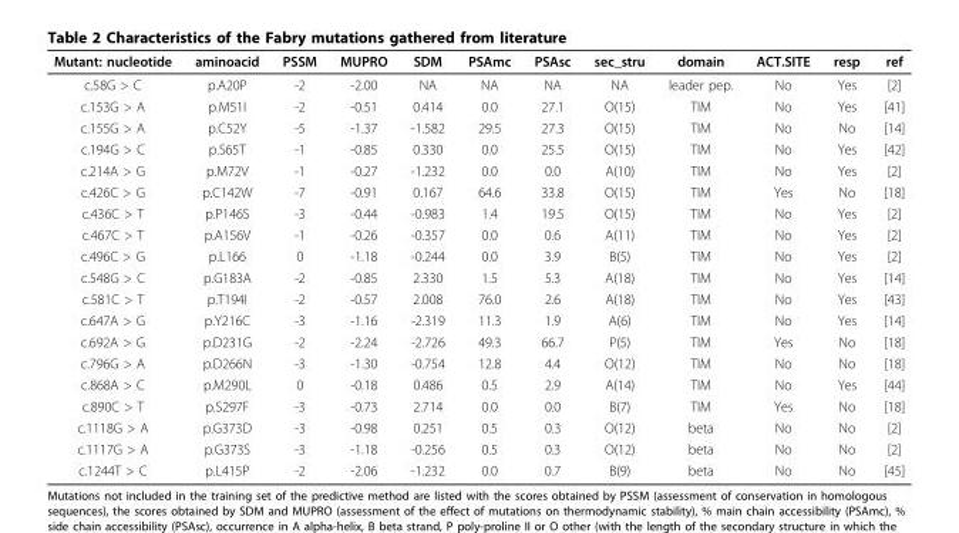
<table><thead><tr><td>Mutant: nucleotide</td><td>aminoacid</td><td>PSSM</td><td>MUPRO</td><td>SDM</td><td>PSAmc</td><td>PSAsc</td><td>sec_stru</td><td>domain</td><td>ACT.SITE</td><td>resp</td><td>ref</td></tr></thead><tbody><tr><td>c.58G &gt; C</td><td>p.A20P</td><td>-2</td><td>-2.00</td><td>NA</td><td>NA</td><td>NA</td><td>NA</td><td>leader pep.</td><td>No</td><td>Yes</td><td>[2]</td></tr><tr><td>c.153G &gt; A</td><td>p.M51I</td><td>-2</td><td>-0.51</td><td>0.414</td><td>0.0</td><td>27.1</td><td>O(15)</td><td>TIM</td><td>No</td><td>Yes</td><td>[41]</td></tr><tr><td>c.155G &gt; A</td><td>p.C52Y</td><td>-5</td><td>-1.37</td><td>-1.582</td><td>29.5</td><td>27.3</td><td>O(15)</td><td>TIM</td><td>No</td><td>No</td><td>[14]</td></tr><tr><td>c.194G &gt; C</td><td>p.S65T</td><td>-1</td><td>-0.85</td><td>0.330</td><td>0.0</td><td>25.5</td><td>O(15)</td><td>TIM</td><td>No</td><td>Yes</td><td>[42]</td></tr><tr><td>c.214A &gt; G</td><td>p.M72V</td><td>-1</td><td>-0.27</td><td>-1.232</td><td>0.0</td><td>0.0</td><td>A(10)</td><td>TIM</td><td>No</td><td>Yes</td><td>[2]</td></tr><tr><td>c.426C &gt; G</td><td>p.C142W</td><td>-7</td><td>-0.91</td><td>0.167</td><td>64.6</td><td>33.8</td><td>O(15)</td><td>TIM</td><td>Yes</td><td>No</td><td>[18]</td></tr><tr><td>c.436C &gt; T</td><td>p.P146S</td><td>-3</td><td>-0.44</td><td>-0.983</td><td>1.4</td><td>19.5</td><td>O(15)</td><td>TIM</td><td>No</td><td>Yes</td><td>[2]</td></tr><tr><td>c.467C &gt; T</td><td>p.A156V</td><td>-1</td><td>-0.26</td><td>-0.357</td><td>0.0</td><td>0.6</td><td>A(11)</td><td>TIM</td><td>No</td><td>Yes</td><td>[2]</td></tr><tr><td>c.496C &gt; G</td><td>p.L166</td><td>0</td><td>-1.18</td><td>-0.244</td><td>0.0</td><td>3.9</td><td>B(5)</td><td>TIM</td><td>No</td><td>Yes</td><td>[2]</td></tr><tr><td>c.548G &gt; C</td><td>p.G183A</td><td>-2</td><td>-0.85</td><td>2.330</td><td>1.5</td><td>5.3</td><td>A(18)</td><td>TIM</td><td>No</td><td>Yes</td><td>[14]</td></tr><tr><td>c.581C &gt; T</td><td>p.T194I</td><td>-2</td><td>-0.57</td><td>2.008</td><td>76.0</td><td>2.6</td><td>A(18)</td><td>TIM</td><td>No</td><td>Yes</td><td>[43]</td></tr><tr><td>c.647A &gt; G</td><td>p.Y216C</td><td>-3</td><td>-1.16</td><td>-2.319</td><td>11.3</td><td>1.9</td><td>A(6)</td><td>TIM</td><td>No</td><td>Yes</td><td>[14]</td></tr><tr><td>c.692A &gt; G</td><td>p.D231G</td><td>-2</td><td>-2.24</td><td>-2.726</td><td>49.3</td><td>66.7</td><td>P(5)</td><td>TIM</td><td>Yes</td><td>No</td><td>[18]</td></tr><tr><td>c.796G &gt; A</td><td>p.D266N</td><td>-3</td><td>-1.30</td><td>-0.754</td><td>12.8</td><td>4.4</td><td>O(12)</td><td>TIM</td><td>No</td><td>No</td><td>[18]</td></tr><tr><td>c.868A &gt; C</td><td>p.M290L</td><td>0</td><td>-0.18</td><td>0.486</td><td>0.5</td><td>2.9</td><td>A(14)</td><td>TIM</td><td>No</td><td>Yes</td><td>[44]</td></tr><tr><td>c.890C &gt; T</td><td>p.S297F</td><td>-3</td><td>-0.73</td><td>2.714</td><td>0.0</td><td>0.0</td><td>B(7)</td><td>TIM</td><td>Yes</td><td>No</td><td>[18]</td></tr><tr><td>c.1118G &gt; A</td><td>p.G373D</td><td>-3</td><td>-0.98</td><td>0.251</td><td>0.5</td><td>0.3</td><td>O(12)</td><td>beta</td><td>No</td><td>No</td><td>[2]</td></tr><tr><td>c.1117G &gt; A</td><td>p.G373S</td><td>-3</td><td>-1.18</td><td>-0.256</td><td>0.5</td><td>0.3</td><td>O(12)</td><td>beta</td><td>No</td><td>No</td><td>[2]</td></tr><tr><td>c.1244T &gt; C</td><td>p.L415P</td><td>-2</td><td>-2.06</td><td>-1.232</td><td>0.0</td><td>0.7</td><td>B(9)</td><td>beta</td><td>No</td><td>No</td><td>[45]</td></tr></tbody></table>